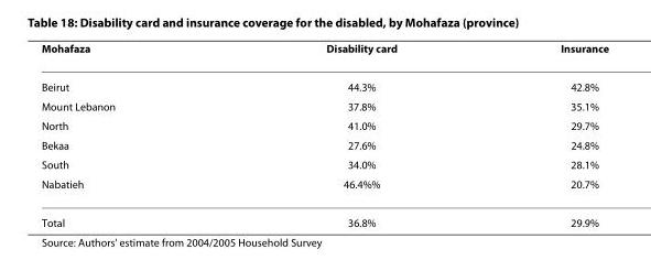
<table><thead><tr><td>Mohafaza</td><td>Disability card</td><td>Insurance</td></tr></thead><tbody><tr><td>Beirut</td><td>44.3%</td><td>42.8%</td></tr><tr><td>Mount Lebanon</td><td>37.8%</td><td>35.1%</td></tr><tr><td>North</td><td>41.0%</td><td>29.7%</td></tr><tr><td>Bekaa</td><td>27.6%</td><td>24.8%</td></tr><tr><td>South</td><td>34.0%</td><td>28.1%</td></tr><tr><td>Nabatieh</td><td>46.4%%</td><td>20.7%</td></tr><tr><td>Total</td><td>36.8%</td><td>29.9%</td></tr></tbody></table>